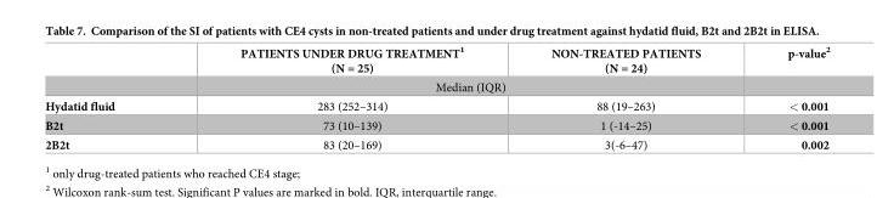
<table><thead><tr><td></td><td>PATIENTS UNDER DRUG TREATMENT<sup>1</sup> (N = 25)</td><td>NON-TREATED PATIENTS (N = 24)</td><td>p-value<sup>2</sup></td></tr></thead><tbody><tr><td></td><td colspan="2">Median (IQR)</td><td></td></tr><tr><td>Hydatid fluid</td><td>283 (252–314)</td><td>88 (19–263)</td><td>&lt; 0.001</td></tr><tr><td>B2t</td><td>73 (10–139)</td><td>1 (-14–25)</td><td>&lt; 0.001</td></tr><tr><td>2B2t</td><td>83 (20–169)</td><td>3(-6–47)</td><td>0.002</td></tr></tbody></table>